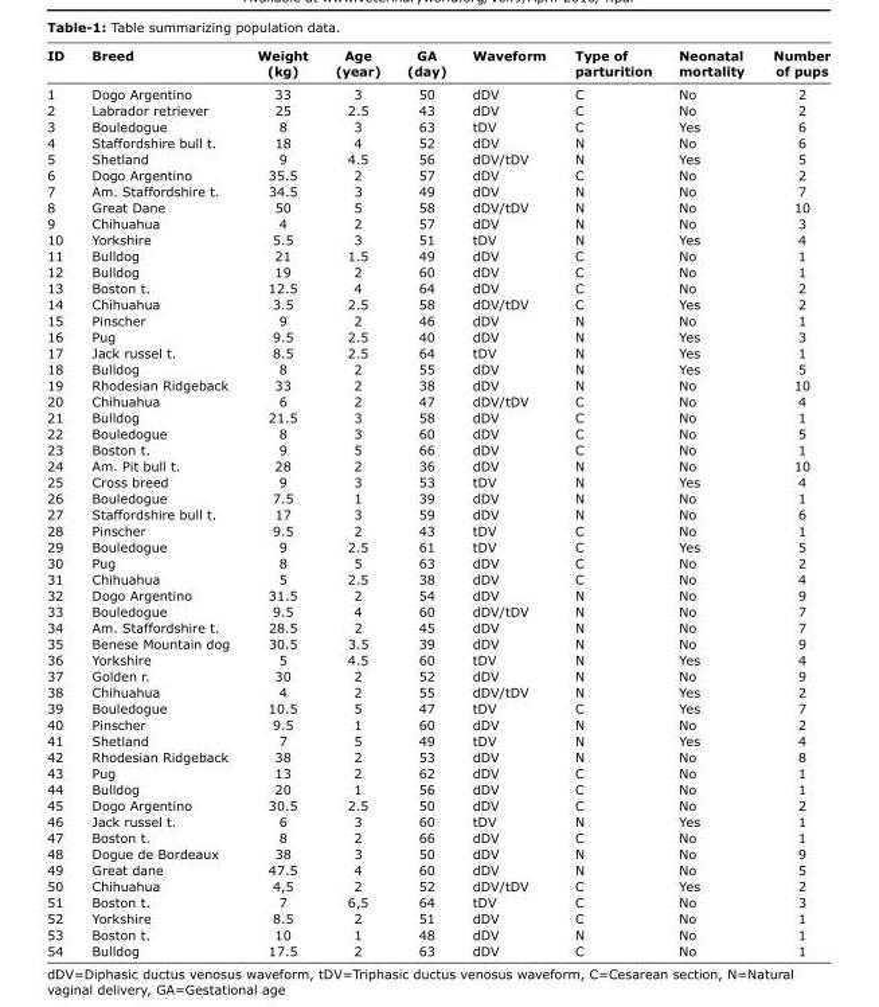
<table><thead><tr><td>ID</td><td>Breed</td><td>Weight (kg)</td><td>Age (year)</td><td>GA (day)</td><td>Waveform</td><td>Type of parturition</td><td>Neonatal mortality</td><td>Number of pups</td></tr></thead><tbody><tr><td>1</td><td>Dogo Argentino</td><td>33</td><td>3</td><td>50</td><td>dDV</td><td>C</td><td>No</td><td>2</td></tr><tr><td>2</td><td>Labrador retriever</td><td>25</td><td>2.5</td><td>43</td><td>dDV</td><td>C</td><td>No</td><td>2</td></tr><tr><td>3</td><td>Bouledogue</td><td>8</td><td>3</td><td>63</td><td>tDV</td><td>C</td><td>Yes</td><td>6</td></tr><tr><td>4</td><td>Staffordshire bull t.</td><td>18</td><td>4</td><td>52</td><td>dDV</td><td>N</td><td>No</td><td>6</td></tr><tr><td>5</td><td>Shetland</td><td>9</td><td>4.5</td><td>56</td><td>dDV/tDV</td><td>N</td><td>Yes</td><td>5</td></tr><tr><td>6</td><td>Dogo Argentino</td><td>35.5</td><td>2</td><td>57</td><td>dDV</td><td>C</td><td>No</td><td>2</td></tr><tr><td>7</td><td>Am. Staffordshire t.</td><td>34.5</td><td>3</td><td>49</td><td>dDV</td><td>N</td><td>No</td><td>7</td></tr><tr><td>8</td><td>Great Dane</td><td>50</td><td>5</td><td>58</td><td>dDV/tDV</td><td>N</td><td>No</td><td>10</td></tr><tr><td>9</td><td>Chihuahua</td><td>4</td><td>2</td><td>57</td><td>dDV</td><td>N</td><td>No</td><td>3</td></tr><tr><td>10</td><td>Yorkshire</td><td>5.5</td><td>3</td><td>51</td><td>tDV</td><td>N</td><td>Yes</td><td>4</td></tr><tr><td>11</td><td>Bulldog</td><td>21</td><td>1.5</td><td>49</td><td>dDV</td><td>C</td><td>No</td><td>1</td></tr><tr><td>12</td><td>Bulldog</td><td>19</td><td>2</td><td>60</td><td>dDV</td><td>C</td><td>No</td><td>1</td></tr><tr><td>13</td><td>Boston t.</td><td>12.5</td><td>4</td><td>64</td><td>dDV</td><td>C</td><td>No</td><td>2</td></tr><tr><td>14</td><td>Chihuahua</td><td>3.5</td><td>2.5</td><td>58</td><td>dDV/tDV</td><td>C</td><td>Yes</td><td>2</td></tr><tr><td>15</td><td>Pinscher</td><td>9</td><td>2</td><td>46</td><td>dDV</td><td>N</td><td>No</td><td>1</td></tr><tr><td>16</td><td>Pug</td><td>9.5</td><td>2.5</td><td>40</td><td>dDV</td><td>N</td><td>Yes</td><td>3</td></tr><tr><td>17</td><td>Jack russel t.</td><td>8.5</td><td>2.5</td><td>64</td><td>tDV</td><td>N</td><td>Yes</td><td>1</td></tr><tr><td>18</td><td>Bulldog</td><td>8</td><td>2</td><td>55</td><td>dDV</td><td>N</td><td>Yes</td><td>5</td></tr><tr><td>19</td><td>Rhodesian Ridgeback</td><td>33</td><td>2</td><td>38</td><td>dDV</td><td>N</td><td>No</td><td>10</td></tr><tr><td>20</td><td>Chihuahua</td><td>6</td><td>2</td><td>47</td><td>dDV/tDV</td><td>C</td><td>No</td><td>4</td></tr><tr><td>21</td><td>Bulldog</td><td>21.5</td><td>3</td><td>58</td><td>dDV</td><td>C</td><td>No</td><td>1</td></tr><tr><td>22</td><td>Bouledogue</td><td>8</td><td>3</td><td>60</td><td>dDV</td><td>C</td><td>No</td><td>5</td></tr><tr><td>23</td><td>Boston t.</td><td>9</td><td>5</td><td>66</td><td>dDV</td><td>C</td><td>No</td><td>1</td></tr><tr><td>24</td><td>Am. Pit bull t.</td><td>28</td><td>2</td><td>36</td><td>dDV</td><td>N</td><td>No</td><td>10</td></tr><tr><td>25</td><td>Cross breed</td><td>9</td><td>3</td><td>53</td><td>tDV</td><td>N</td><td>Yes</td><td>4</td></tr><tr><td>26</td><td>Bouledogue</td><td>7.5</td><td>1</td><td>39</td><td>dDV</td><td>N</td><td>No</td><td>1</td></tr><tr><td>27</td><td>Staffordshire bull t.</td><td>17</td><td>3</td><td>59</td><td>dDV</td><td>N</td><td>No</td><td>6</td></tr><tr><td>28</td><td>Pinscher</td><td>9.5</td><td>2</td><td>43</td><td>tDV</td><td>C</td><td>No</td><td>1</td></tr><tr><td>29</td><td>Bouledogue</td><td>9</td><td>2.5</td><td>61</td><td>tDV</td><td>C</td><td>Yes</td><td>5</td></tr><tr><td>30</td><td>Pug</td><td>8</td><td>5</td><td>63</td><td>dDV</td><td>C</td><td>No</td><td>2</td></tr><tr><td>31</td><td>Chihuahua</td><td>5</td><td>2.5</td><td>38</td><td>dDV</td><td>C</td><td>No</td><td>4</td></tr><tr><td>32</td><td>Dogo Argentino</td><td>31.5</td><td>2</td><td>54</td><td>dDV</td><td>N</td><td>No</td><td>9</td></tr><tr><td>33</td><td>Bouledogue</td><td>9.5</td><td>4</td><td>60</td><td>dDV/tDV</td><td>N</td><td>No</td><td>7</td></tr><tr><td>34</td><td>Am. Staffordshire t.</td><td>28.5</td><td>2</td><td>45</td><td>dDV</td><td>N</td><td>No</td><td>7</td></tr><tr><td>35</td><td>Benese Mountain dog</td><td>30.5</td><td>3.5</td><td>39</td><td>dDV</td><td>N</td><td>No</td><td>9</td></tr><tr><td>36</td><td>Yorkshire</td><td>5</td><td>4.5</td><td>60</td><td>tDV</td><td>N</td><td>Yes</td><td>4</td></tr><tr><td>37</td><td>Golden r.</td><td>30</td><td>2</td><td>52</td><td>dDV</td><td>N</td><td>No</td><td>9</td></tr><tr><td>38</td><td>Chihuahua</td><td>4</td><td>2</td><td>55</td><td>dDV/tDV</td><td>N</td><td>Yes</td><td>2</td></tr><tr><td>39</td><td>Bouledogue</td><td>10.5</td><td>5</td><td>47</td><td>tDV</td><td>C</td><td>Yes</td><td>7</td></tr><tr><td>40</td><td>Pinscher</td><td>9.5</td><td>1</td><td>60</td><td>dDV</td><td>N</td><td>No</td><td>2</td></tr><tr><td>41</td><td>Shetland</td><td>7</td><td>5</td><td>49</td><td>tDV</td><td>N</td><td>Yes</td><td>4</td></tr><tr><td>42</td><td>Rhodesian Ridgeback</td><td>38</td><td>2</td><td>53</td><td>dDV</td><td>N</td><td>No</td><td>8</td></tr><tr><td>43</td><td>Pug</td><td>13</td><td>2</td><td>62</td><td>dDV</td><td>C</td><td>No</td><td>1</td></tr><tr><td>44</td><td>Bulldog</td><td>20</td><td>1</td><td>56</td><td>dDV</td><td>C</td><td>No</td><td>1</td></tr><tr><td>45</td><td>Dogo Argentino</td><td>30.5</td><td>2.5</td><td>50</td><td>dDV</td><td>C</td><td>No</td><td>2</td></tr><tr><td>46</td><td>Jack russel t.</td><td>6</td><td>3</td><td>60</td><td>tDV</td><td>N</td><td>Yes</td><td>1</td></tr><tr><td>47</td><td>Boston t.</td><td>8</td><td>2</td><td>66</td><td>dDV</td><td>C</td><td>No</td><td>1</td></tr><tr><td>48</td><td>Dogue de Bordeaux</td><td>38</td><td>3</td><td>50</td><td>dDV</td><td>N</td><td>No</td><td>9</td></tr><tr><td>49</td><td>Great dane</td><td>47.5</td><td>4</td><td>60</td><td>dDV</td><td>N</td><td>No</td><td>5</td></tr><tr><td>50</td><td>Chihuahua</td><td>4,5</td><td>2</td><td>52</td><td>dDV/tDV</td><td>C</td><td>Yes</td><td>2</td></tr><tr><td>51</td><td>Boston t.</td><td>7</td><td>6,5</td><td>64</td><td>tDV</td><td>C</td><td>No</td><td>3</td></tr><tr><td>52</td><td>Yorkshire</td><td>8.5</td><td>2</td><td>51</td><td>dDV</td><td>C</td><td>No</td><td>1</td></tr><tr><td>53</td><td>Boston t.</td><td>10</td><td>1</td><td>48</td><td>dDV</td><td>N</td><td>No</td><td>1</td></tr><tr><td>54</td><td>Bulldog</td><td>17.5</td><td>2</td><td>63</td><td>dDV</td><td>C</td><td>No</td><td>1</td></tr></tbody></table>